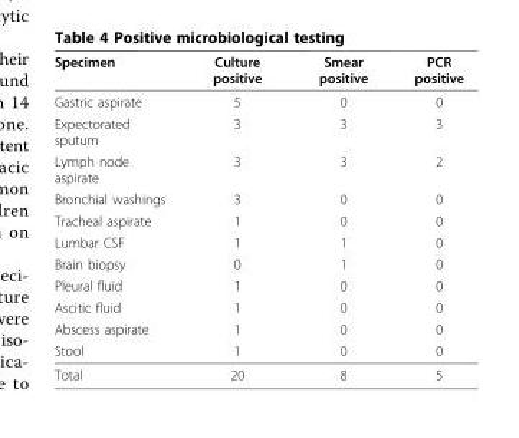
<table><thead><tr><td>Specimen</td><td>Culture positive</td><td>Smear positive</td><td>PCR positive</td></tr></thead><tbody><tr><td>Gastric aspirate</td><td>5</td><td>0</td><td>0</td></tr><tr><td>Expectorated sputum</td><td>3</td><td>3</td><td>3</td></tr><tr><td>Lymph node aspirate</td><td>3</td><td>3</td><td>2</td></tr><tr><td>Bronchial washings</td><td>3</td><td>0</td><td>0</td></tr><tr><td>Tracheal aspirate</td><td>1</td><td>0</td><td>0</td></tr><tr><td>Lumbar CSF</td><td>1</td><td>1</td><td>0</td></tr><tr><td>Brain biopsy</td><td>0</td><td>1</td><td>0</td></tr><tr><td>Pleural fluid</td><td>1</td><td>0</td><td>0</td></tr><tr><td>Ascitic fluid</td><td>1</td><td>0</td><td>0</td></tr><tr><td>Abscess aspirate</td><td>1</td><td>0</td><td>0</td></tr><tr><td>Stool</td><td>1</td><td>0</td><td>0</td></tr><tr><td>Total</td><td>20</td><td>8</td><td>5</td></tr></tbody></table>